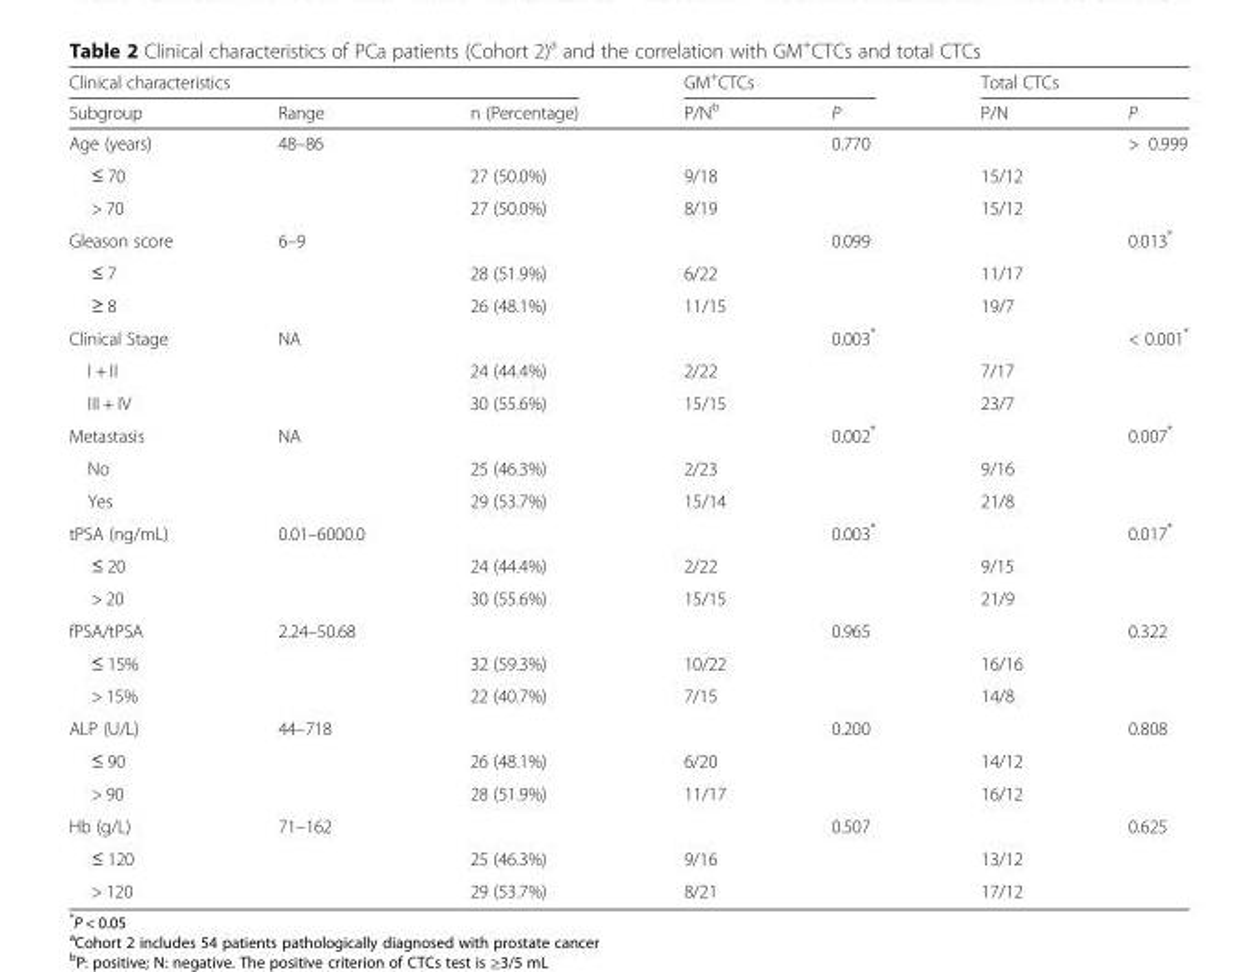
<table><thead><tr><td colspan="3">Clinical characteristics</td><td colspan="2">GM<sup>+</sup>CTCs</td><td colspan="2">Total CTCs</td></tr><tr><td>Subgroup</td><td>Range</td><td>n (Percentage)</td><td>P/N<sup>b</sup></td><td>P</td><td>P/N</td><td>P</td></tr></thead><tbody><tr><td>Age (years)</td><td>48–86</td><td></td><td></td><td>0.770</td><td></td><td>&gt; 0.999</td></tr><tr><td>≤ 70</td><td></td><td>27 (50.0%)</td><td>9/18</td><td></td><td>15/12</td><td></td></tr><tr><td>&gt; 70</td><td></td><td>27 (50.0%)</td><td>8/19</td><td></td><td>15/12</td><td></td></tr><tr><td>Gleason score</td><td>6–9</td><td></td><td></td><td>0.099</td><td></td><td>0.013*</td></tr><tr><td>≤ 7</td><td></td><td>28 (51.9%)</td><td>6/22</td><td></td><td>11/17</td><td></td></tr><tr><td>≥ 8</td><td></td><td>26 (48.1%)</td><td>11/15</td><td></td><td>19/7</td><td></td></tr><tr><td>Clinical Stage</td><td>NA</td><td></td><td></td><td>0.003*</td><td></td><td>&lt; 0.001*</td></tr><tr><td>I + II</td><td></td><td>24 (44.4%)</td><td>2/22</td><td></td><td>7/17</td><td></td></tr><tr><td>III + IV</td><td></td><td>30 (55.6%)</td><td>15/15</td><td></td><td>23/7</td><td></td></tr><tr><td>Metastasis</td><td>NA</td><td></td><td></td><td>0.002*</td><td></td><td>0.007*</td></tr><tr><td>No</td><td></td><td>25 (46.3%)</td><td>2/23</td><td></td><td>9/16</td><td></td></tr><tr><td>Yes</td><td></td><td>29 (53.7%)</td><td>15/14</td><td></td><td>21/8</td><td></td></tr><tr><td>tPSA (ng/mL)</td><td>0.01–6000.0</td><td></td><td></td><td>0.003*</td><td></td><td>0.017*</td></tr><tr><td>≤ 20</td><td></td><td>24 (44.4%)</td><td>2/22</td><td></td><td>9/15</td><td></td></tr><tr><td>&gt; 20</td><td></td><td>30 (55.6%)</td><td>15/15</td><td></td><td>21/9</td><td></td></tr><tr><td>fPSA/tPSA</td><td>2.24–50.68</td><td></td><td></td><td>0.965</td><td></td><td>0.322</td></tr><tr><td>≤ 15%</td><td></td><td>32 (59.3%)</td><td>10/22</td><td></td><td>16/16</td><td></td></tr><tr><td>&gt; 15%</td><td></td><td>22 (40.7%)</td><td>7/15</td><td></td><td>14/8</td><td></td></tr><tr><td>ALP (U/L)</td><td>44–718</td><td></td><td></td><td>0.200</td><td></td><td>0.808</td></tr><tr><td>≤ 90</td><td></td><td>26 (48.1%)</td><td>6/20</td><td></td><td>14/12</td><td></td></tr><tr><td>&gt; 90</td><td></td><td>28 (51.9%)</td><td>11/17</td><td></td><td>16/12</td><td></td></tr><tr><td>Hb (g/L)</td><td>71–162</td><td></td><td></td><td>0.507</td><td></td><td>0.625</td></tr><tr><td>≤ 120</td><td></td><td>25 (46.3%)</td><td>9/16</td><td></td><td>13/12</td><td></td></tr><tr><td>&gt; 120</td><td></td><td>29 (53.7%)</td><td>8/21</td><td></td><td>17/12</td><td></td></tr></tbody></table>